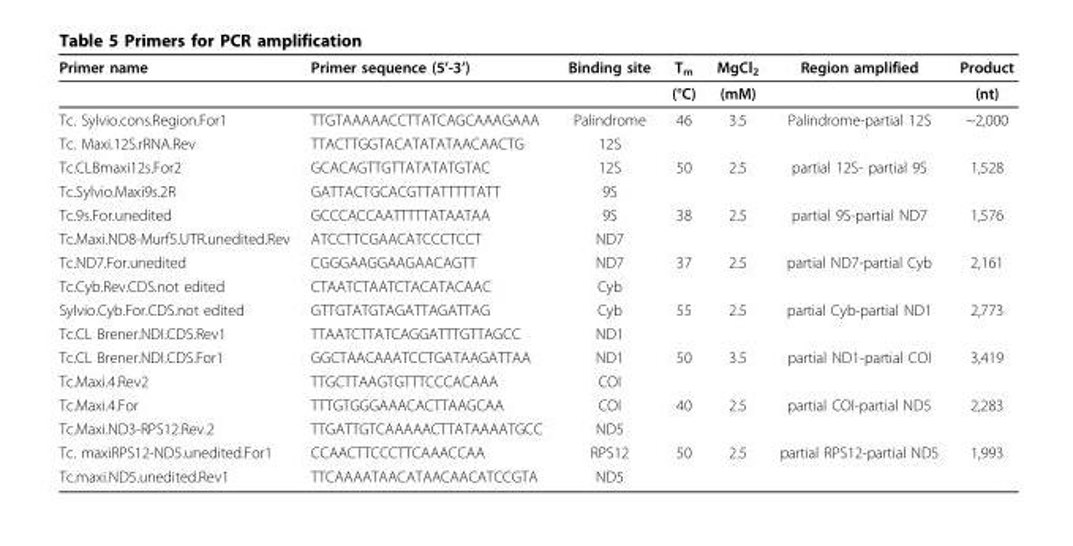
<table><thead><tr><td>Primer name</td><td>Primer sequence (5’-3’)</td><td>Binding site</td><td>T<sub>m</sub></td><td>MgCl<sub>2</sub></td><td>Region amplified</td><td>Product</td></tr></thead><tbody><tr><td></td><td></td><td></td><td>(°C)</td><td>(mM)</td><td></td><td>(nt)</td></tr><tr><td>Tc. Sylvio.cons.Region.For1</td><td>TTGTAAAAACCTTATCAGCAAAGAAA</td><td>Palindrome</td><td>46</td><td>3.5</td><td>Palindrome-partial 12S</td><td>~2,000</td></tr><tr><td>Tc. Maxi.12S.rRNA.Rev</td><td>TTACTTGGTACATATATAACAACTG</td><td>12S</td><td></td><td></td><td></td><td></td></tr><tr><td>Tc.CLBmaxi12s.For2</td><td>GCACAGTTGTTATATATGTAC</td><td>12S</td><td>50</td><td>2.5</td><td>partial 12S- partial 9S</td><td>1,528</td></tr><tr><td>Tc.Sylvio.Maxi9s.2R</td><td>GATTACTGCACGTTATTTTTATT</td><td>9S</td><td></td><td></td><td></td><td></td></tr><tr><td>Tc.9s.For.unedited</td><td>GCCCACCAATTTTTATAATAA</td><td>9S</td><td>38</td><td>2.5</td><td>partial 9S-partial ND7</td><td>1,576</td></tr><tr><td>Tc.Maxi.ND8-Murf5.UTR.unedited.Rev</td><td>ATCCTTCGAACATCCCTCCT</td><td>ND7</td><td></td><td></td><td></td><td></td></tr><tr><td>Tc.ND7.For.unedited</td><td>CGGGAAGGAAGAACAGTT</td><td>ND7</td><td>37</td><td>2.5</td><td>partial ND7-partial Cyb</td><td>2,161</td></tr><tr><td>Tc.Cyb.Rev.CDS.not edited</td><td>CTAATCTAATCTACATACAAC</td><td>Cyb</td><td></td><td></td><td></td><td></td></tr><tr><td>Sylvio.Cyb.For.CDS.not edited</td><td>GTTGTATGTAGATTAGATTAG</td><td>Cyb</td><td>55</td><td>2.5</td><td>partial Cyb-partial ND1</td><td>2,773</td></tr><tr><td>Tc.CL Brener.NDI.CDS.Rev1</td><td>TTAATCTTATCAGGATTTGTTAGCC</td><td>ND1</td><td></td><td></td><td></td><td></td></tr><tr><td>Tc.CL Brener.NDI.CDS.For1</td><td>GGCTAACAAATCCTGATAAGATTAA</td><td>ND1</td><td>50</td><td>3.5</td><td>partial ND1-partial COI</td><td>3,419</td></tr><tr><td>Tc.Maxi.4.Rev2</td><td>TTGCTTAAGTGTTTCCCACAAA</td><td>COI</td><td></td><td></td><td></td><td></td></tr><tr><td>Tc.Maxi.4.For</td><td>TTTGTGGGAAACACTTAAGCAA</td><td>COI</td><td>40</td><td>2.5</td><td>partial COI-partial ND5</td><td>2,283</td></tr><tr><td>Tc.Maxi.ND3-RPS12.Rev.2</td><td>TTGATTGTCAAAAACTTATAAAATGCC</td><td>ND5</td><td></td><td></td><td></td><td></td></tr><tr><td>Tc. maxiRPS12-ND5.unedited.For1</td><td>CCAACTTCCCTTCAAACCAA</td><td>RPS12</td><td>50</td><td>2.5</td><td>partial RPS12-partial ND5</td><td>1,993</td></tr><tr><td>Tc.maxi.ND5.unedited.Rev1</td><td>TTCAAAATAACATAACAACATCCGTA</td><td>ND5</td><td></td><td></td><td></td><td></td></tr></tbody></table>